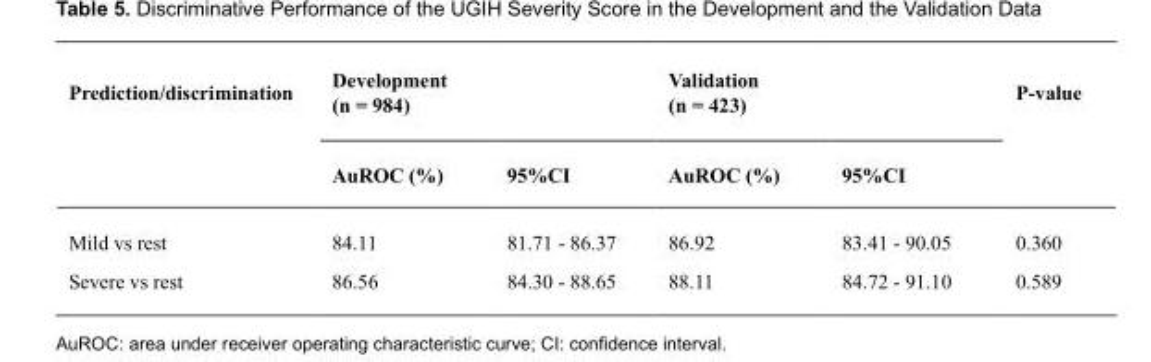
<table><thead><tr><td rowspan="2">Prediction/discrimination</td><td colspan="2">Development (n = 984)</td><td colspan="2">Validation (n = 423)</td><td rowspan="2">P-value</td></tr><tr><td>AuROC (%)</td><td>95%CI</td><td>AuROC (%)</td><td>95%CI</td></tr></thead><tbody><tr><td>Mild vs rest</td><td>84.11</td><td>81.71 - 86.37</td><td>86.92</td><td>83.41 - 90.05</td><td>0.360</td></tr><tr><td>Severe vs rest</td><td>86.56</td><td>84.30 - 88.65</td><td>88.11</td><td>84.72 - 91.10</td><td>0.589</td></tr></tbody></table>